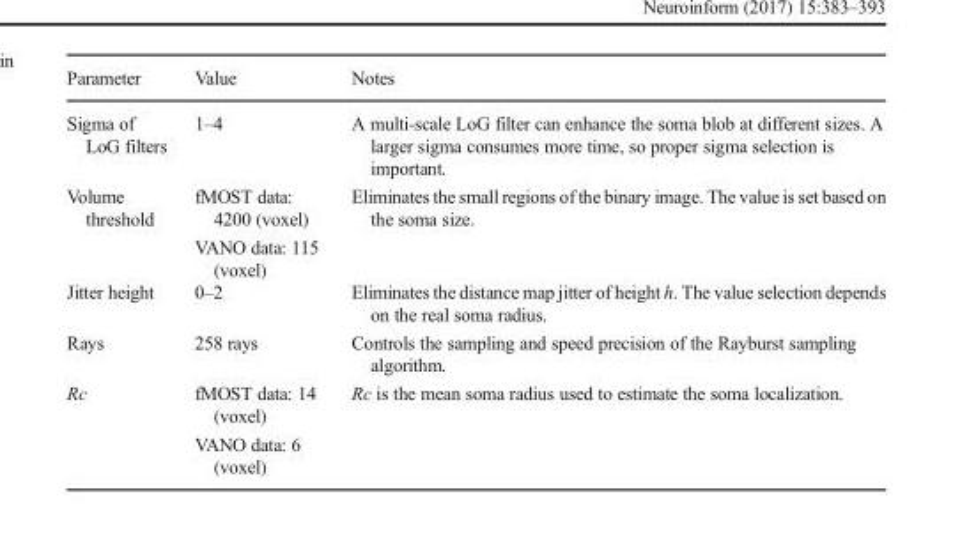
<table><thead><tr><td>Parameter</td><td>Value</td><td>Notes</td></tr></thead><tbody><tr><td>Sigma of LoG filters</td><td>1–4</td><td>A multi-scale LoG filter can enhance the soma blob at different sizes. A larger sigma consumes more time, so proper sigma selection is important.</td></tr><tr><td>Volume threshold</td><td>fMOST data: 4200 (voxel) VANO data: 115 (voxel)</td><td>Eliminates the small regions of the binary image. The value is set based on the soma size.</td></tr><tr><td>Jitter height</td><td>0–2</td><td>Eliminates the distance map jitter of height h. The value selection depends on the real soma radius.</td></tr><tr><td>Rays</td><td>258 rays</td><td>Controls the sampling and speed precision of the Rayburst sampling algorithm.</td></tr><tr><td>Rc</td><td>fMOST data: 14 (voxel) VANO data: 6 (voxel)</td><td>Rc is the mean soma radius used to estimate the soma localization.</td></tr></tbody></table>